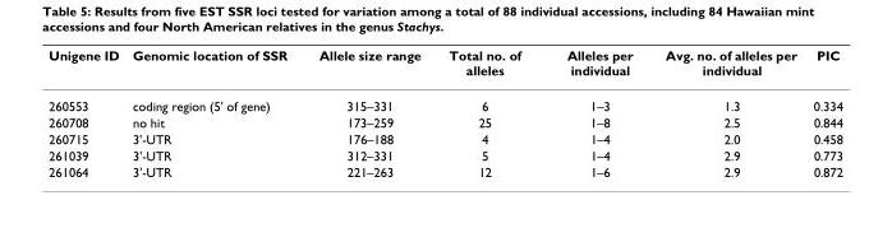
<table><thead><tr><td>Unigene ID</td><td>Genomic location of SSR</td><td>Allele size range</td><td>Total no. of alleles</td><td>Alleles per individual</td><td>Avg. no. of alleles per individual</td><td>PIC</td></tr></thead><tbody><tr><td>260553</td><td>coding region (5&#x27; of gene)</td><td>315–331</td><td>6</td><td>1–3</td><td>1.3</td><td>0.334</td></tr><tr><td>260708</td><td>no hit</td><td>173–259</td><td>25</td><td>1–8</td><td>2.5</td><td>0.844</td></tr><tr><td>260715</td><td>3&#x27;-UTR</td><td>176–188</td><td>4</td><td>1–4</td><td>2.0</td><td>0.458</td></tr><tr><td>261039</td><td>3&#x27;-UTR</td><td>312–331</td><td>5</td><td>1–4</td><td>2.9</td><td>0.773</td></tr><tr><td>261064</td><td>3&#x27;-UTR</td><td>221–263</td><td>12</td><td>1–6</td><td>2.9</td><td>0.872</td></tr></tbody></table>